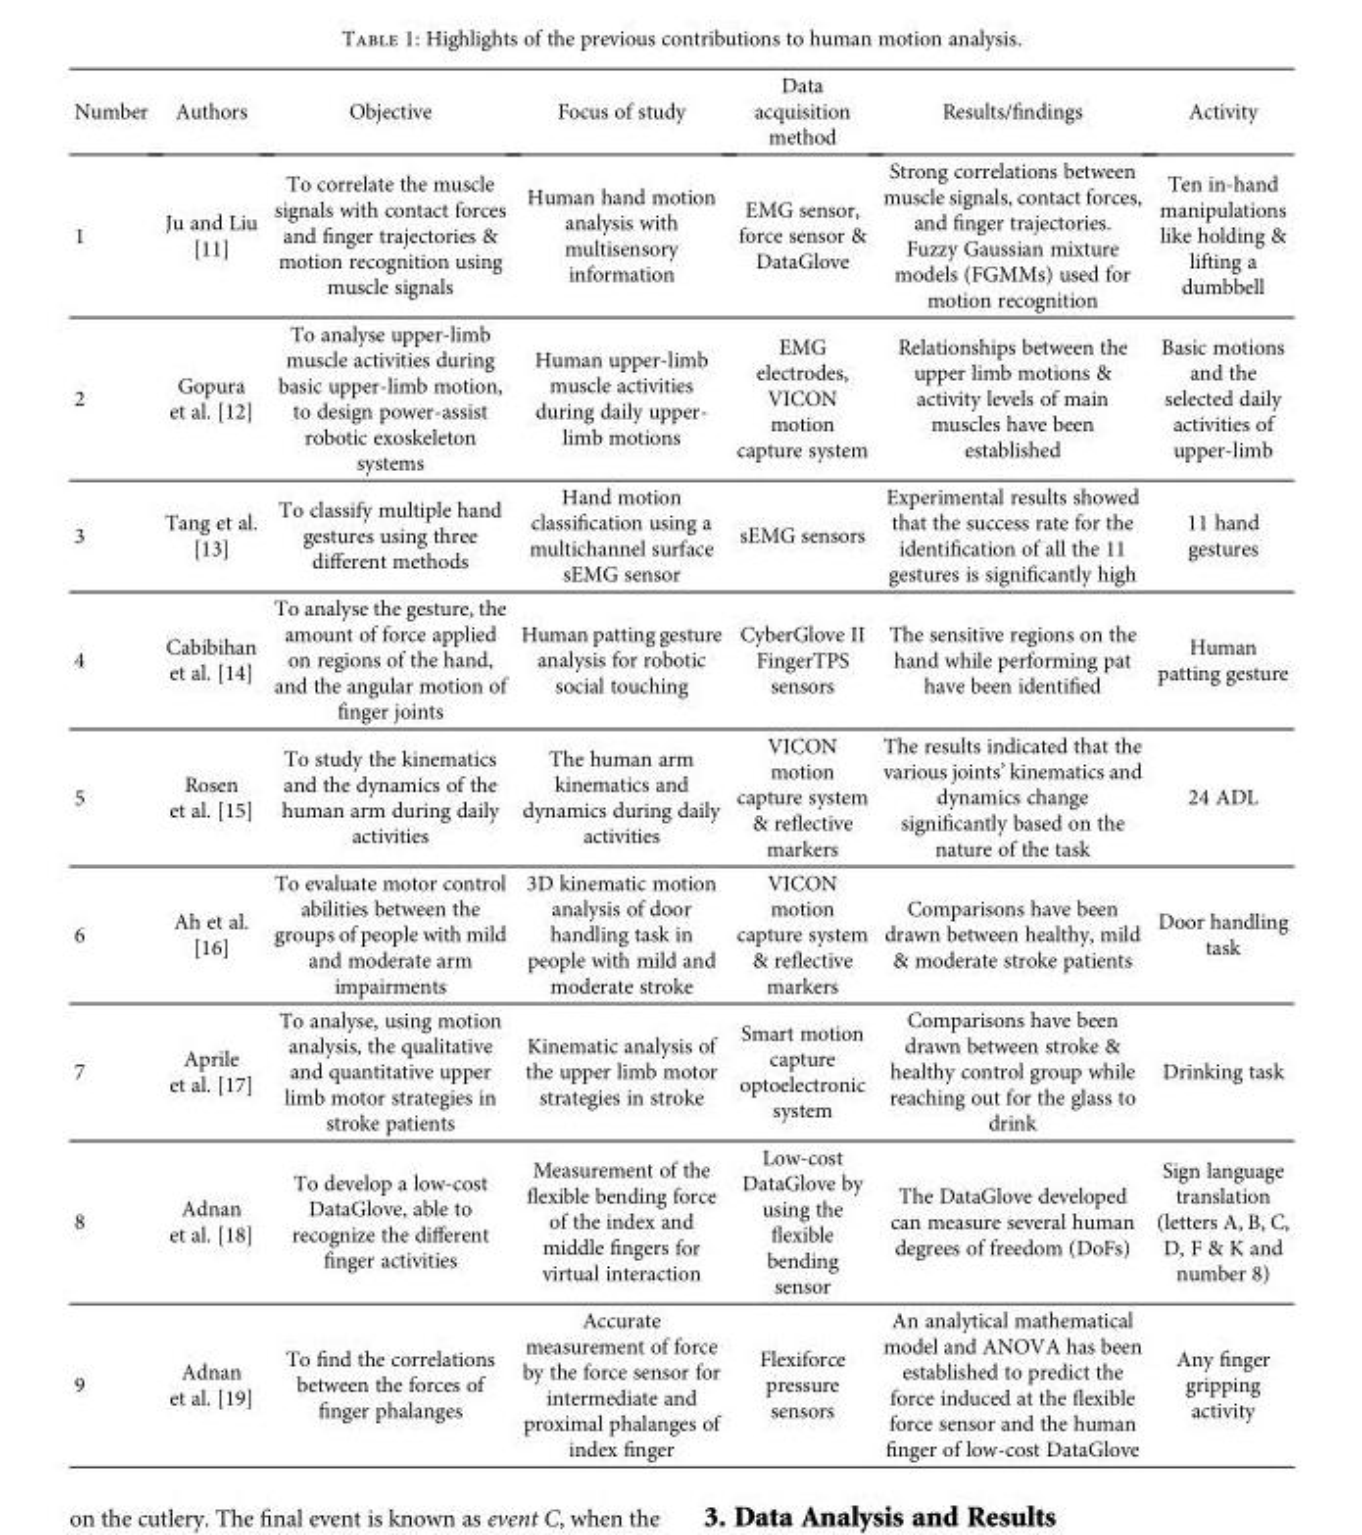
<table><thead><tr><td>Number</td><td>Authors</td><td>Objective</td><td>Focus of study</td><td>Data acquisition method</td><td>Results/findings</td><td>Activity</td></tr></thead><tbody><tr><td>1</td><td>Ju and Liu [11]</td><td>To correlate the muscle signals with contact forces and finger trajectories &amp; motion recognition using muscle signals</td><td>Human hand motion analysis with multisensory information</td><td>EMG sensor, force sensor &amp; DataGlove</td><td>Strong correlations between muscle signals, contact forces, and finger trajectories. Fuzzy Gaussian mixture models (FGMMs) used for motion recognition</td><td>Ten in-hand manipulations like holding &amp; lifting a dumbbell</td></tr><tr><td>2</td><td>Gopura et al. [12]</td><td>To analyse upper-limb muscle activities during basic upper-limb motion, to design power-assist robotic exoskeleton systems</td><td>Human upper-limb muscle activities during daily upper- limb motions</td><td>EMG electrodes, VICON motion capture system</td><td>Relationships between the upper limb motions &amp; activity levels of main muscles have been established</td><td>Basic motions and the selected daily activities of upper-limb</td></tr><tr><td>3</td><td>Tang et al. [13]</td><td>To classify multiple hand gestures using three different methods</td><td>Hand motion classification using a multichannel surface sEMG sensor</td><td>sEMG sensors</td><td>Experimental results showed that the success rate for the identification of all the 11 gestures is significantly high</td><td>11 hand gestures</td></tr><tr><td>4</td><td>Cabibihan et al. [14]</td><td>To analyse the gesture, the amount of force applied on regions of the hand, and the angular motion of finger joints</td><td>Human patting gesture analysis for robotic social touching</td><td>CyberGlove II FingerTPS sensors</td><td>The sensitive regions on the hand while performing pat have been identified</td><td>Human patting gesture</td></tr><tr><td>5</td><td>Rosen et al. [15]</td><td>To study the kinematics and the dynamics of the human arm during daily activities</td><td>The human arm kinematics and dynamics during daily activities</td><td>VICON motion capture system &amp; reflective markers</td><td>The results indicated that the various joints’ kinematics and dynamics change significantly based on the nature of the task</td><td>24 ADL</td></tr><tr><td>6</td><td>Ah et al. [16]</td><td>To evaluate motor control abilities between the groups of people with mild and moderate arm impairments</td><td>3D kinematic motion analysis of door handling task in people with mild and moderate stroke</td><td>VICON motion capture system &amp; reflective markers</td><td>Comparisons have been drawn between healthy, mild &amp; moderate stroke patients</td><td>Door handling task</td></tr><tr><td>7</td><td>Aprile et al. [17]</td><td>To analyse, using motion analysis, the qualitative and quantitative upper limb motor strategies in stroke patients</td><td>Kinematic analysis of the upper limb motor strategies in stroke</td><td>Smart motion capture optoelectronic system</td><td>Comparisons have been drawn between stroke &amp; healthy control group while reaching out for the glass to drink</td><td>Drinking task</td></tr><tr><td>8</td><td>Adnan et al. [18]</td><td>To develop a low-cost DataGlove, able to recognize the different finger activities</td><td>Measurement of the flexible bending force of the index and middle fingers for virtual interaction</td><td>Low-cost DataGlove by using the flexible bending sensor</td><td>The DataGlove developed can measure several human degrees of freedom (DoFs)</td><td>Sign language translation (letters A, B, C, D, F &amp; K and number 8)</td></tr><tr><td>9</td><td>Adnan et al. [19]</td><td>To find the correlations between the forces of finger phalanges</td><td>Accurate measurement of force by the force sensor for intermediate and proximal phalanges of index finger</td><td>Flexiforce pressure sensors</td><td>An analytical mathematical model and ANOVA has been established to predict the force induced at the flexible force sensor and the human finger of low-cost DataGlove</td><td>Any finger gripping activity</td></tr></tbody></table>